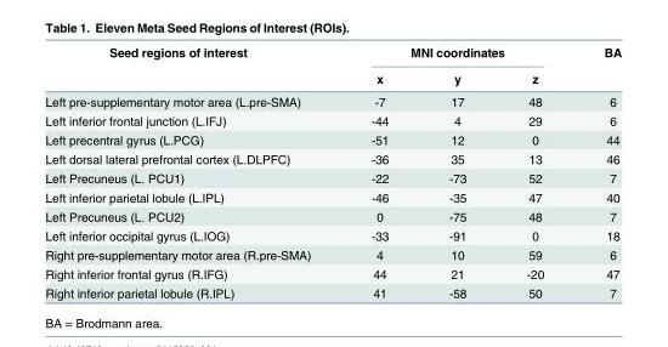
<table><thead><tr><td rowspan="2">Seed regions of interest</td><td colspan="3">MNI coordinates</td><td rowspan="2">BA</td></tr><tr><td>x</td><td>y</td><td>z</td></tr></thead><tbody><tr><td>Left pre-supplementary motor area (L.pre-SMA)</td><td>-7</td><td>17</td><td>48</td><td>6</td></tr><tr><td>Left inferior frontal junction (L.IFJ)</td><td>-44</td><td>4</td><td>29</td><td>6</td></tr><tr><td>Left precentral gyrus (L.PCG)</td><td>-51</td><td>12</td><td>0</td><td>44</td></tr><tr><td>Left dorsal lateral prefrontal cortex (L.DLPFC)</td><td>-36</td><td>35</td><td>13</td><td>46</td></tr><tr><td>Left Precuneus (L. PCU1)</td><td>-22</td><td>-73</td><td>52</td><td>7</td></tr><tr><td>Left inferior parietal lobule (L.IPL)</td><td>-46</td><td>-35</td><td>47</td><td>40</td></tr><tr><td>Left Precuneus (L. PCU2)</td><td>0</td><td>-75</td><td>48</td><td>7</td></tr><tr><td>Left inferior occipital gyrus (L.IOG)</td><td>-33</td><td>-91</td><td>0</td><td>18</td></tr><tr><td>Right pre-supplementary motor area (R.pre-SMA)</td><td>4</td><td>10</td><td>59</td><td>6</td></tr><tr><td>Right inferior frontal gyrus (R.IFG)</td><td>44</td><td>21</td><td>-20</td><td>47</td></tr><tr><td>Right inferior parietal lobule (R.IPL)</td><td>41</td><td>-58</td><td>50</td><td>7</td></tr></tbody></table>